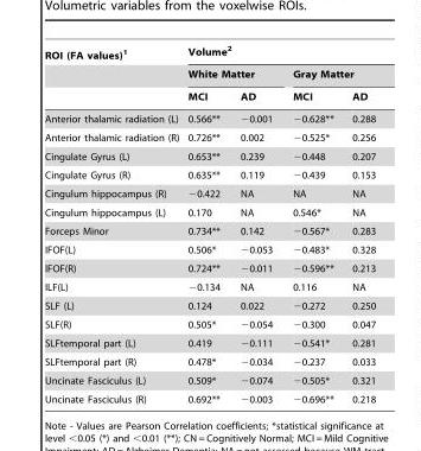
<table><thead><tr><td rowspan="3">ROI (FA values)<sup>1</sup></td><td colspan="4">Volume<sup>2</sup></td></tr><tr><td colspan="2">White Matter</td><td colspan="2">Gray Matter</td></tr><tr><td>MCI</td><td>AD</td><td>MCI</td><td>AD</td></tr></thead><tbody><tr><td>Anterior thalamic radiation (L)</td><td>0.566**</td><td>−0.001</td><td>−0.628**</td><td>0.288</td></tr><tr><td>Anterior thalamic radiation (R)</td><td>0.726**</td><td>0.002</td><td>−0.525*</td><td>0.256</td></tr><tr><td>Cingulate Gyrus (L)</td><td>0.653**</td><td>0.239</td><td>−0.448</td><td>0.207</td></tr><tr><td>Cingulate Gyrus (R)</td><td>0.635**</td><td>0.119</td><td>−0.439</td><td>0.153</td></tr><tr><td>Cingulum hippocampus (R)</td><td>−0.422</td><td>NA</td><td>NA</td><td>NA</td></tr><tr><td>Cingulum hippocampus (L)</td><td>0.170</td><td>NA</td><td>0.546*</td><td>NA</td></tr><tr><td>Forceps Minor</td><td>0.734**</td><td>0.142</td><td>−0.567*</td><td>0.283</td></tr><tr><td>IFOF(L)</td><td>0.506*</td><td>−0.053</td><td>−0.483*</td><td>0.328</td></tr><tr><td>IFOF(R)</td><td>0.724**</td><td>−0.011</td><td>−0.596**</td><td>0.213</td></tr><tr><td>ILF(L)</td><td>−0.134</td><td>NA</td><td>0.116</td><td>NA</td></tr><tr><td>SLF (L)</td><td>0.124</td><td>0.022</td><td>−0.272</td><td>0.250</td></tr><tr><td>SLF(R)</td><td>0.505*</td><td>−0.054</td><td>−0.300</td><td>0.047</td></tr><tr><td>SLFtemporal part (L)</td><td>0.419</td><td>−0.111</td><td>−0.541*</td><td>0.281</td></tr><tr><td>SLFtemporal part (R)</td><td>0.478*</td><td>−0.034</td><td>−0.237</td><td>0.033</td></tr><tr><td>Uncinate Fasciculus (L)</td><td>0.509*</td><td>−0.074</td><td>−0.505*</td><td>0.321</td></tr><tr><td>Uncinate Fasciculus (R)</td><td>0.692**</td><td>−0.003</td><td>−0.696**</td><td>0.218</td></tr></tbody></table>